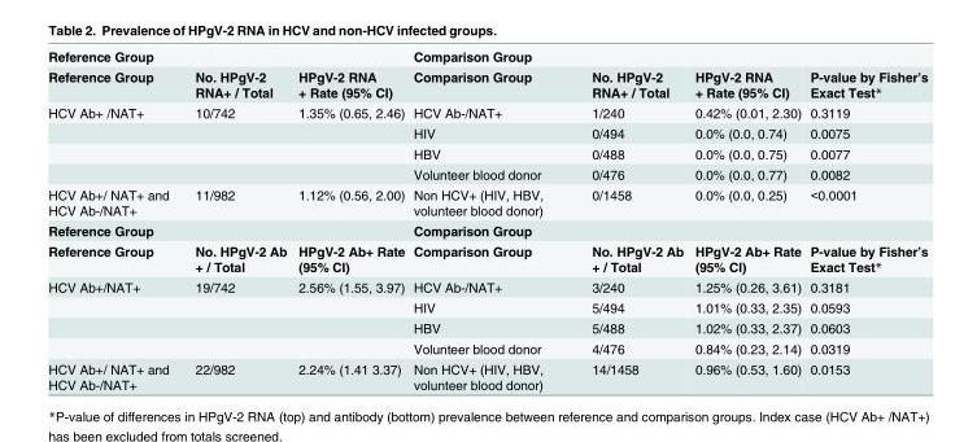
<table><tbody><tr><td colspan="3">Reference Group</td><td colspan="3">Comparison Group</td><td></td></tr><tr><td>Reference Group</td><td>No. HPgV-2 RNA+ / Total</td><td>HPgV-2 RNA + Rate (95% CI)</td><td>Comparison Group</td><td>No. HPgV-2 RNA+ / Total</td><td>HPgV-2 RNA + Rate (95% CI)</td><td>P-value by Fisher’s Exact Test*</td></tr><tr><td rowspan="4">HCV Ab+ /NAT+</td><td>10/742</td><td>1.35% (0.65, 2.46)</td><td>HCV Ab-/NAT+</td><td>1/240</td><td>0.42% (0.01, 2.30)</td><td>0.3119</td></tr><tr><td></td><td></td><td>HIV</td><td>0/494</td><td>0.0% (0.0, 0.74)</td><td>0.0075</td></tr><tr><td></td><td></td><td>HBV</td><td>0/488</td><td>0.0% (0.0, 0.75)</td><td>0.0077</td></tr><tr><td></td><td></td><td>Volunteer blood donor</td><td>0/476</td><td>0.0% (0.0, 0.77)</td><td>0.0082</td></tr><tr><td>HCV Ab+/ NAT+ and HCV Ab-/NAT+</td><td>11/982</td><td>1.12% (0.56, 2.00)</td><td>Non HCV+ (HIV, HBV, volunteer blood donor)</td><td>0/1458</td><td>0.0% (0.0, 0.25)</td><td>&lt;0.0001</td></tr><tr><td colspan="3">Reference Group</td><td colspan="3">Comparison Group</td><td></td></tr><tr><td>Reference Group</td><td>No. HPgV-2 Ab + / Total</td><td>HPgV-2 Ab+ Rate (95% CI)</td><td>Comparison Group</td><td>No. HPgV-2 Ab + / Total</td><td>HPgV-2 Ab+ Rate (95% CI)</td><td>P-value by Fisher’s Exact Test*</td></tr><tr><td rowspan="4">HCV Ab+/NAT+</td><td>19/742</td><td>2.56% (1.55, 3.97)</td><td>HCV Ab-/NAT+</td><td>3/240</td><td>1.25% (0.26, 3.61)</td><td>0.3181</td></tr><tr><td></td><td></td><td>HIV</td><td>5/494</td><td>1.01% (0.33, 2.35)</td><td>0.0593</td></tr><tr><td></td><td></td><td>HBV</td><td>5/488</td><td>1.02% (0.33, 2.37)</td><td>0.0603</td></tr><tr><td></td><td></td><td>Volunteer blood donor</td><td>4/476</td><td>0.84% (0.23, 2.14)</td><td>0.0319</td></tr><tr><td>HCV Ab+/ NAT+ and HCV Ab-/NAT+</td><td>22/982</td><td>2.24% (1.41 3.37)</td><td>Non HCV+ (HIV, HBV, volunteer blood donor)</td><td>14/1458</td><td>0.96% (0.53, 1.60)</td><td>0.0153</td></tr></tbody></table>